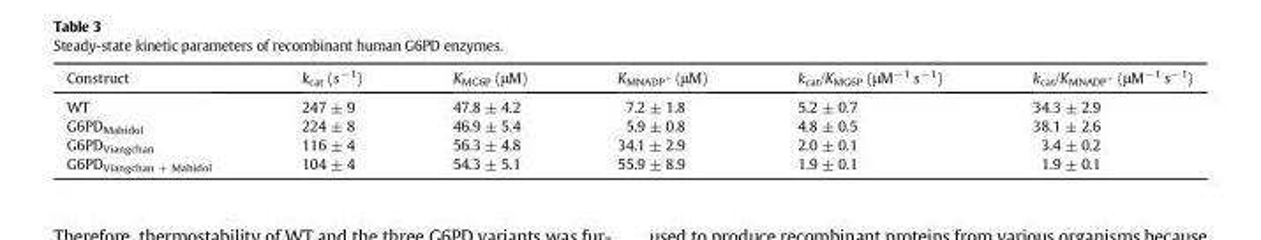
<table><thead><tr><td>Construct</td><td>k<sub>cat</sub> (s<sup>−1</sup>)</td><td>K<sub>MG6P</sub> (μM)</td><td>K<sub>MNADP</sub><sup><sub>+</sub></sup> (μM)</td><td>k<sub>cat</sub>/K<sub>MG6P</sub> (μM<sup>−1</sup> s<sup>−1</sup>)</td><td>k<sub>cat</sub>/K<sub>MNADP</sub><sup><sub>+</sub></sup> (μM<sup>−1</sup> s<sup>−1</sup>)</td></tr></thead><tbody><tr><td>WT</td><td>247 ± 9</td><td>47.8 ± 4.2</td><td>7.2 ± 1.8</td><td>5.2 ± 0.7</td><td>34.3 ± 2.9</td></tr><tr><td>G6PD<sub>Mahidol</sub></td><td>224 ± 8</td><td>46.9 ± 5.4</td><td>5.9 ± 0.8</td><td>4.8 ± 0.5</td><td>38.1 ± 2.6</td></tr><tr><td>G6PD<sub>Viangchan</sub></td><td>116 ± 4</td><td>56.3 ± 4.8</td><td>34.1 ± 2.9</td><td>2.0 ± 0.1</td><td>3.4 ± 0.2</td></tr><tr><td>G6PD<sub>Viangchan + Mahidol</sub></td><td>104 ± 4</td><td>54.3 ± 5.1</td><td>55.9 ± 8.9</td><td>1.9 ± 0.1</td><td>1.9 ± 0.1</td></tr></tbody></table>